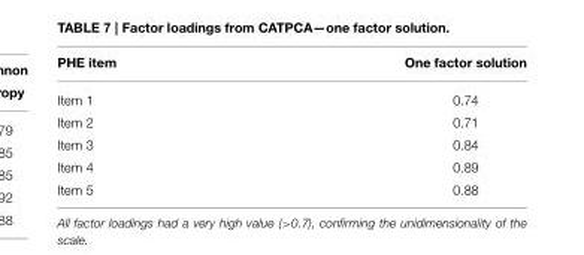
<table><thead><tr><td>PHE item</td><td>One factor solution</td></tr></thead><tbody><tr><td>Item 1</td><td>0.74</td></tr><tr><td>Item 2</td><td>0.71</td></tr><tr><td>Item 3</td><td>0.84</td></tr><tr><td>Item 4</td><td>0.89</td></tr><tr><td>Item 5</td><td>0.88</td></tr></tbody></table>